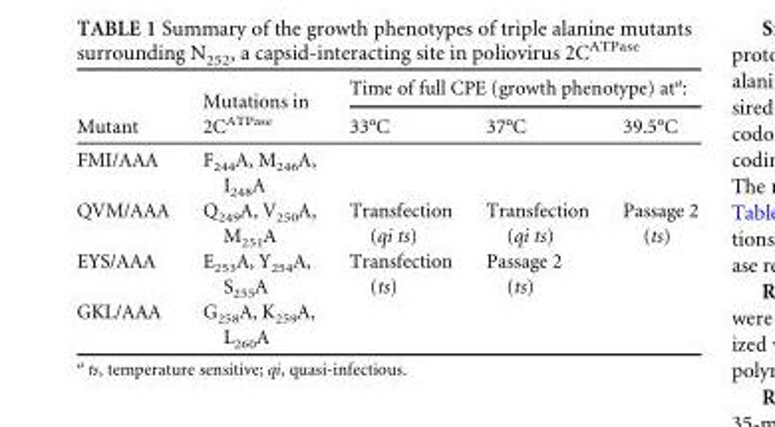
<table><thead><tr><td rowspan="2">Mutant</td><td rowspan="2">Mutations in 2C<sup>ATPase</sup></td><td colspan="3">Time of full CPE (growth phenotype) at<sup>a</sup>:</td></tr><tr><td>33°C</td><td>37°C</td><td>39.5°C</td></tr></thead><tbody><tr><td>FMI/AAA</td><td>F<sub>244</sub>A, M<sub>246</sub>A, I<sub>248</sub>A</td><td></td><td></td><td></td></tr><tr><td>QVM/AAA</td><td>Q<sub>249</sub>A, V<sub>250</sub>A, M<sub>251</sub>A</td><td>Transfection (qi ts)</td><td>Transfection (qi ts)</td><td>Passage 2 (ts)</td></tr><tr><td>EYS/AAA</td><td>E<sub>253</sub>A, Y<sub>254</sub>A, S<sub>255</sub>A</td><td>Transfection (ts)</td><td>Passage 2 (ts)</td><td></td></tr><tr><td>GKL/AAA</td><td>G<sub>258</sub>A, K<sub>259</sub>A, L<sub>260</sub>A</td><td></td><td></td><td></td></tr></tbody></table>